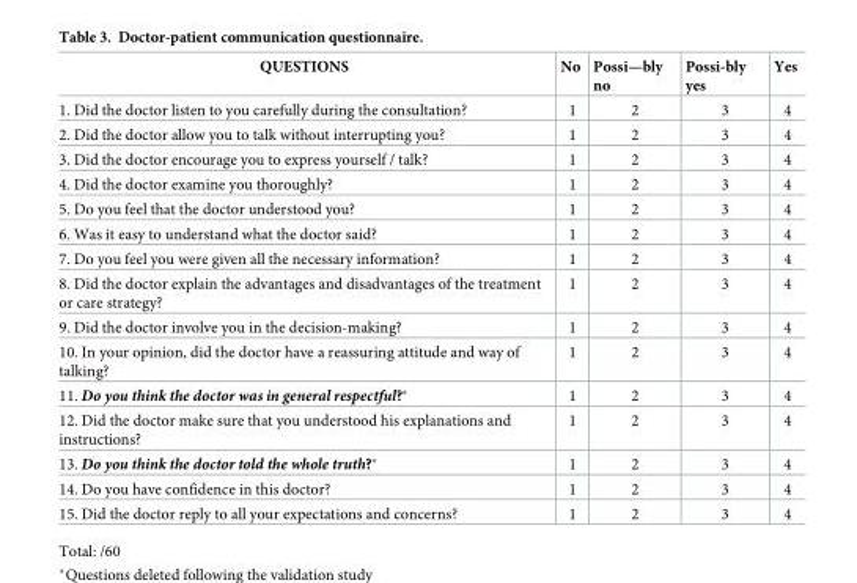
<table><thead><tr><td>QUESTIONS</td><td>No</td><td>Possi—bly no</td><td>Possi-bly yes</td><td>Yes</td></tr></thead><tbody><tr><td>1. Did the doctor listen to you carefully during the consultation?</td><td>1</td><td>2</td><td>3</td><td>4</td></tr><tr><td>2. Did the doctor allow you to talk without interrupting you?</td><td>1</td><td>2</td><td>3</td><td>4</td></tr><tr><td>3. Did the doctor encourage you to express yourself / talk?</td><td>1</td><td>2</td><td>3</td><td>4</td></tr><tr><td>4. Did the doctor examine you thoroughly?</td><td>1</td><td>2</td><td>3</td><td>4</td></tr><tr><td>5. Do you feel that the doctor understood you?</td><td>1</td><td>2</td><td>3</td><td>4</td></tr><tr><td>6. Was it easy to understand what the doctor said?</td><td>1</td><td>2</td><td>3</td><td>4</td></tr><tr><td>7. Do you feel you were given all the necessary information?</td><td>1</td><td>2</td><td>3</td><td>4</td></tr><tr><td>8. Did the doctor explain the advantages and disadvantages of the treatment or care strategy?</td><td>1</td><td>2</td><td>3</td><td>4</td></tr><tr><td>9. Did the doctor involve you in the decision-making?</td><td>1</td><td>2</td><td>3</td><td>4</td></tr><tr><td>10. In your opinion, did the doctor have a reassuring attitude and way of talking?</td><td>1</td><td>2</td><td>3</td><td>4</td></tr><tr><td>11. Do you think the doctor was in general respectful?*</td><td>1</td><td>2</td><td>3</td><td>4</td></tr><tr><td>12. Did the doctor make sure that you understood his explanations and instructions?</td><td>1</td><td>2</td><td>3</td><td>4</td></tr><tr><td>13. Do you think the doctor told the whole truth?*</td><td>1</td><td>2</td><td>3</td><td>4</td></tr><tr><td>14. Do you have confidence in this doctor?</td><td>1</td><td>2</td><td>3</td><td>4</td></tr><tr><td>15. Did the doctor reply to all your expectations and concerns?</td><td>1</td><td>2</td><td>3</td><td>4</td></tr></tbody></table>